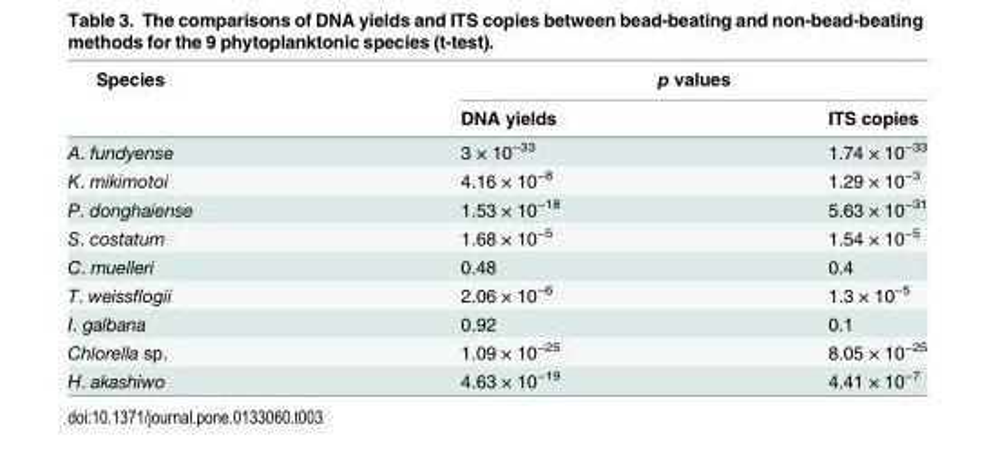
<table><thead><tr><td rowspan="2">Species</td><td colspan="2">p values</td></tr><tr><td>DNA yields</td><td>ITS copies</td></tr></thead><tbody><tr><td>A. fundyense</td><td>3 × 10<sup>−33</sup></td><td>1.74 × 10<sup>−33</sup></td></tr><tr><td>K. mikimotoi</td><td>4.16 × 10<sup>−8</sup></td><td>1.29 × 10<sup>−3</sup></td></tr><tr><td>P. donghaiense</td><td>1.53 × 10<sup>−18</sup></td><td>5.63 × 10<sup>−31</sup></td></tr><tr><td>S. costatum</td><td>1.68 × 10<sup>−5</sup></td><td>1.54 × 10<sup>−5</sup></td></tr><tr><td>C. muelleri</td><td>0.48</td><td>0.4</td></tr><tr><td>T. weissflogii</td><td>2.06 × 10<sup>−6</sup></td><td>1.3 × 10<sup>−5</sup></td></tr><tr><td>I. galbana</td><td>0.92</td><td>0.1</td></tr><tr><td>Chlorella sp.</td><td>1.09 × 10<sup>−25</sup></td><td>8.05 × 10<sup>−25</sup></td></tr><tr><td>H. akashiwo</td><td>4.63 × 10<sup>−19</sup></td><td>4.41 × 10<sup>−7</sup></td></tr></tbody></table>